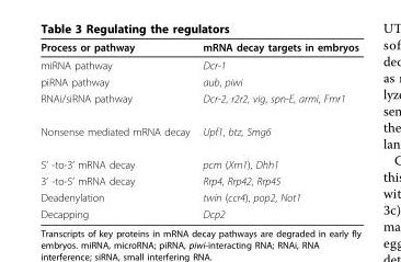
<table><thead><tr><td>Process or pathway</td><td>mRNA decay targets in embryos</td></tr></thead><tbody><tr><td>miRNA pathway</td><td>Dcr-1</td></tr><tr><td>piRNA pathway</td><td>aub, piwi</td></tr><tr><td>RNAi/siRNA pathway</td><td>Dcr-2, r2r2, vig, spn-E, armi, Fmr1</td></tr><tr><td>Nonsense mediated mRNA decay</td><td>Upf1, btz, Smg6</td></tr><tr><td>5’ -to-3’ mRNA decay</td><td>pcm (Xrn1), Dhh1</td></tr><tr><td>3’ -to-5’ mRNA decay</td><td>Rrp4, Rrp42, Rrp45</td></tr><tr><td>Deadenylation</td><td>twin (ccr4), pop2, Not1</td></tr><tr><td>Decapping</td><td>Dcp2</td></tr></tbody></table>